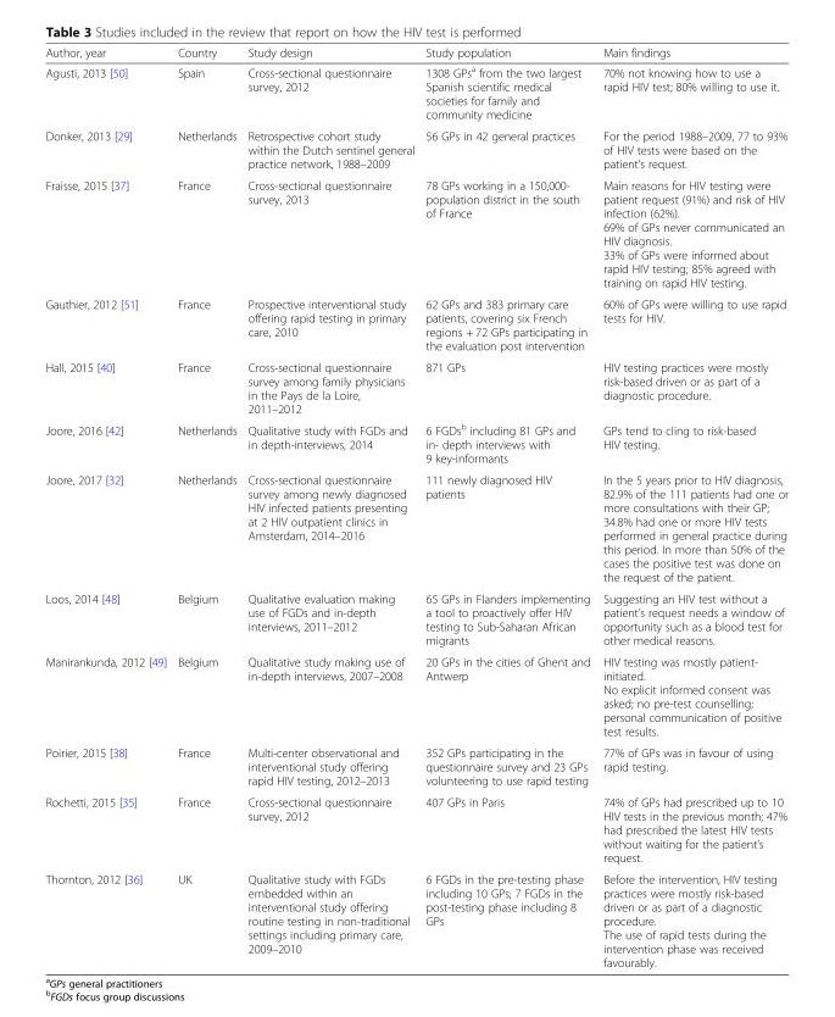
<table><thead><tr><td>Author, year</td><td>Country</td><td>Study design</td><td>Study population</td><td>Main findings</td></tr></thead><tbody><tr><td>Agusti, 2013 [50]</td><td>Spain</td><td>Cross-sectional questionnaire survey, 2012</td><td>1308 GPs<sup>a</sup> from the two largest Spanish scientific medical societies for family and community medicine</td><td>70% not knowing how to use a rapid HIV test; 80% willing to use it.</td></tr><tr><td>Donker, 2013 [29]</td><td>Netherlands</td><td>Retrospective cohort study within the Dutch sentinel general practice network, 1988–2009</td><td>56 GPs in 42 general practices</td><td>For the period 1988–2009, 77 to 93% of HIV tests were based on the patient’s request.</td></tr><tr><td>Fraisse, 2015 [37]</td><td>France</td><td>Cross-sectional questionnaire survey, 2013</td><td>78 GPs working in a 150,000- population district in the south of France</td><td>Main reasons for HIV testing were patient request (91%) and risk of HIV infection (62%). 69% of GPs never communicated an HIV diagnosis. 33% of GPs were informed about rapid HIV testing; 85% agreed with training on rapid HIV testing.</td></tr><tr><td>Gauthier, 2012 [51]</td><td>France</td><td>Prospective interventional study offering rapid testing in primary care, 2010</td><td>62 GPs and 383 primary care patients, covering six French regions + 72 GPs participating in the evaluation post intervention</td><td>60% of GPs were willing to use rapid tests for HIV.</td></tr><tr><td>Hall, 2015 [40]</td><td>France</td><td>Cross-sectional questionnaire survey among family physicians in the Pays de la Loire, 2011–2012</td><td>871 GPs</td><td>HIV testing practices were mostly risk-based driven or as part of a diagnostic procedure.</td></tr><tr><td>Joore, 2016 [42]</td><td>Netherlands</td><td>Qualitative study with FGDs and in depth-interviews, 2014</td><td>6 FGDs<sup>b</sup> including 81 GPs and in- depth interviews with 9 key-informants</td><td>GPs tend to cling to risk-based HIV testing.</td></tr><tr><td>Joore, 2017 [32]</td><td>Netherlands</td><td>Cross-sectional questionnaire survey among newly diagnosed HIV infected patients presenting at 2 HIV outpatient clinics in Amsterdam, 2014–2016</td><td>111 newly diagnosed HIV patients</td><td>In the 5 years prior to HIV diagnosis, 82.9% of the 111 patients had one or more consultations with their GP; 34.8% had one or more HIV tests performed in general practice during this period. In more than 50% of the cases the positive test was done on the request of the patient.</td></tr><tr><td>Loos, 2014 [48]</td><td>Belgium</td><td>Qualitative evaluation making use of FGDs and in-depth interviews, 2011–2012</td><td>65 GPs in Flanders implementing a tool to proactively offer HIV testing to Sub-Saharan African migrants</td><td>Suggesting an HIV test without a patient’s request needs a window of opportunity such as a blood test for other medical reasons.</td></tr><tr><td>Manirankunda, 2012 [49]</td><td>Belgium</td><td>Qualitative study making use of in-depth interviews, 2007–2008</td><td>20 GPs in the cities of Ghent and Antwerp</td><td>HIV testing was mostly patient- initiated. No explicit informed consent was asked; no pre-test counselling; personal communication of positive test results.</td></tr><tr><td>Poirier, 2015 [38]</td><td>France</td><td>Multi-center observational and interventional study offering rapid HIV testing, 2012–2013</td><td>352 GPs participating in the questionnaire survey and 23 GPs volunteering to use rapid testing</td><td>77% of GPs was in favour of using rapid testing.</td></tr><tr><td>Rochetti, 2015 [35]</td><td>France</td><td>Cross-sectional questionnaire survey, 2012</td><td>407 GPs in Paris</td><td>74% of GPs had prescribed up to 10 HIV tests in the previous month; 47% had prescribed the latest HIV tests without waiting for the patient’s request.</td></tr><tr><td>Thornton, 2012 [36]</td><td>UK</td><td>Qualitative study with FGDs embedded within an interventional study offering routine testing in non-traditional settings including primary care, 2009–2010</td><td>6 FGDs in the pre-testing phase including 10 GPs; 7 FGDs in the post-testing phase including 8 GPs</td><td>Before the intervention, HIV testing practices were mostly risk-based driven or as part of a diagnostic procedure. The use of rapid tests during the intervention phase was received favourably.</td></tr></tbody></table>